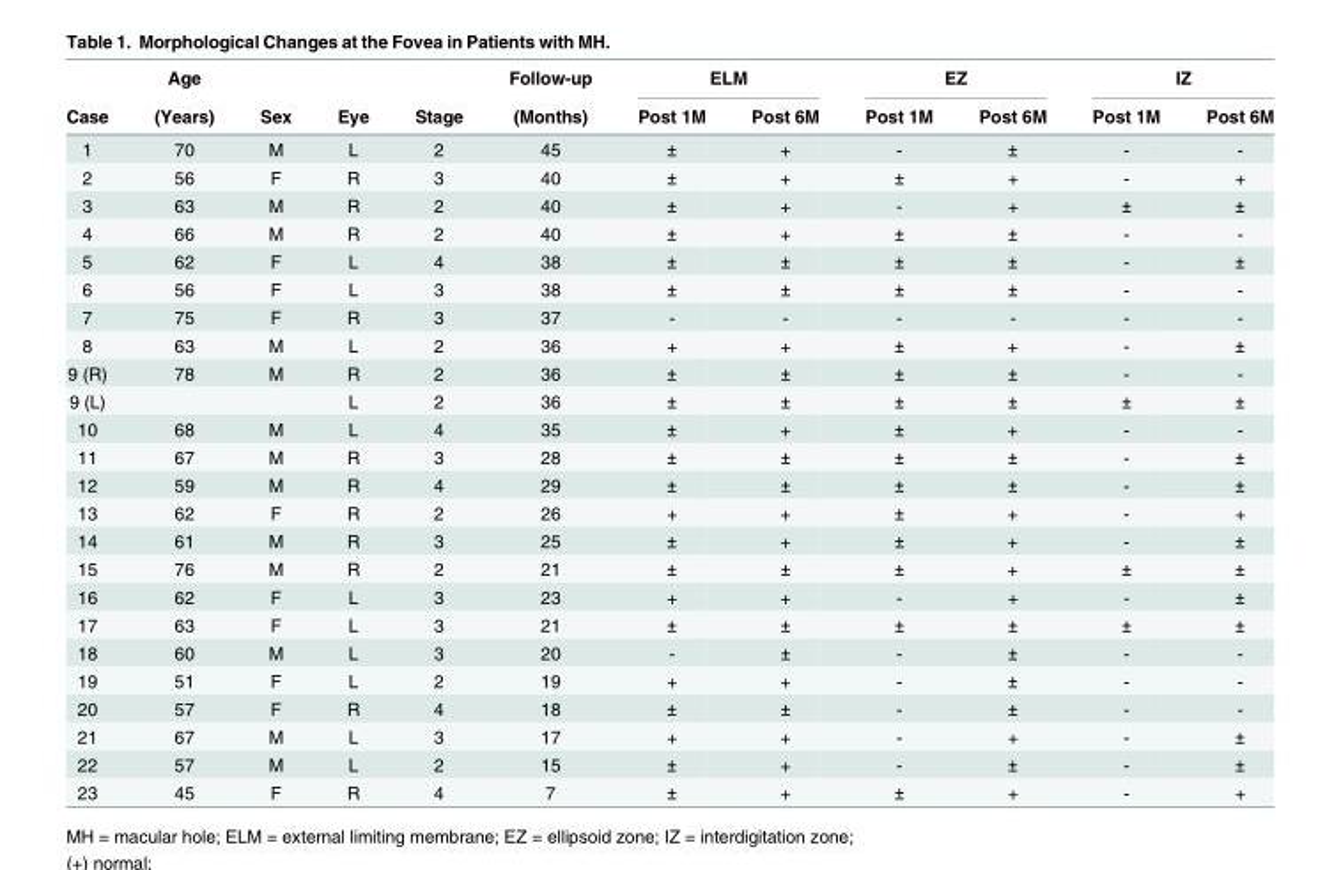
<table><thead><tr><td rowspan="2">Case</td><td rowspan="2">Age (Years)</td><td rowspan="2">Sex</td><td rowspan="2">Eye</td><td rowspan="2">Stage</td><td rowspan="2">Follow-up (Months)</td><td colspan="2">ELM</td><td colspan="2">EZ</td><td colspan="2">IZ</td></tr><tr><td>Post 1M</td><td>Post 6M</td><td>Post 1M</td><td>Post 6M</td><td>Post 1M</td><td>Post 6M</td></tr></thead><tbody><tr><td>1</td><td>70</td><td>M</td><td>L</td><td>2</td><td>45</td><td>±</td><td>+</td><td>-</td><td>±</td><td>-</td><td>-</td></tr><tr><td>2</td><td>56</td><td>F</td><td>R</td><td>3</td><td>40</td><td>±</td><td>+</td><td>±</td><td>+</td><td>-</td><td>+</td></tr><tr><td>3</td><td>63</td><td>M</td><td>R</td><td>2</td><td>40</td><td>±</td><td>+</td><td>-</td><td>+</td><td>±</td><td>±</td></tr><tr><td>4</td><td>66</td><td>M</td><td>R</td><td>2</td><td>40</td><td>±</td><td>+</td><td>±</td><td>±</td><td>-</td><td>-</td></tr><tr><td>5</td><td>62</td><td>F</td><td>L</td><td>4</td><td>38</td><td>±</td><td>±</td><td>±</td><td>±</td><td>-</td><td>±</td></tr><tr><td>6</td><td>56</td><td>F</td><td>L</td><td>3</td><td>38</td><td>±</td><td>±</td><td>±</td><td>±</td><td>-</td><td>-</td></tr><tr><td>7</td><td>75</td><td>F</td><td>R</td><td>3</td><td>37</td><td>-</td><td>-</td><td>-</td><td>-</td><td>-</td><td>-</td></tr><tr><td>8</td><td>63</td><td>M</td><td>L</td><td>2</td><td>36</td><td>+</td><td>+</td><td>±</td><td>+</td><td>-</td><td>±</td></tr><tr><td>9 (R)</td><td>78</td><td>M</td><td>R</td><td>2</td><td>36</td><td>±</td><td>±</td><td>±</td><td>±</td><td>-</td><td>-</td></tr><tr><td>9 (L)</td><td></td><td></td><td>L</td><td>2</td><td>36</td><td>±</td><td>±</td><td>±</td><td>±</td><td>±</td><td>±</td></tr><tr><td>10</td><td>68</td><td>M</td><td>L</td><td>4</td><td>35</td><td>±</td><td>+</td><td>±</td><td>+</td><td>-</td><td>-</td></tr><tr><td>11</td><td>67</td><td>M</td><td>R</td><td>3</td><td>28</td><td>±</td><td>±</td><td>±</td><td>±</td><td>-</td><td>±</td></tr><tr><td>12</td><td>59</td><td>M</td><td>R</td><td>4</td><td>29</td><td>±</td><td>±</td><td>±</td><td>±</td><td>-</td><td>±</td></tr><tr><td>13</td><td>62</td><td>F</td><td>R</td><td>2</td><td>26</td><td>+</td><td>+</td><td>±</td><td>+</td><td>-</td><td>+</td></tr><tr><td>14</td><td>61</td><td>M</td><td>R</td><td>3</td><td>25</td><td>±</td><td>+</td><td>±</td><td>+</td><td>-</td><td>±</td></tr><tr><td>15</td><td>76</td><td>M</td><td>R</td><td>2</td><td>21</td><td>±</td><td>±</td><td>±</td><td>+</td><td>±</td><td>±</td></tr><tr><td>16</td><td>62</td><td>F</td><td>L</td><td>3</td><td>23</td><td>+</td><td>+</td><td>-</td><td>+</td><td>-</td><td>±</td></tr><tr><td>17</td><td>63</td><td>F</td><td>L</td><td>3</td><td>21</td><td>±</td><td>±</td><td>±</td><td>±</td><td>±</td><td>±</td></tr><tr><td>18</td><td>60</td><td>M</td><td>L</td><td>3</td><td>20</td><td>-</td><td>±</td><td>-</td><td>±</td><td>-</td><td>-</td></tr><tr><td>19</td><td>51</td><td>F</td><td>L</td><td>2</td><td>19</td><td>+</td><td>+</td><td>-</td><td>±</td><td>-</td><td>-</td></tr><tr><td>20</td><td>57</td><td>F</td><td>R</td><td>4</td><td>18</td><td>±</td><td>±</td><td>-</td><td>±</td><td>-</td><td>-</td></tr><tr><td>21</td><td>67</td><td>M</td><td>L</td><td>3</td><td>17</td><td>+</td><td>+</td><td>-</td><td>+</td><td>-</td><td>±</td></tr><tr><td>22</td><td>57</td><td>M</td><td>L</td><td>2</td><td>15</td><td>±</td><td>+</td><td>-</td><td>±</td><td>-</td><td>±</td></tr><tr><td>23</td><td>45</td><td>F</td><td>R</td><td>4</td><td>7</td><td>±</td><td>+</td><td>±</td><td>+</td><td>-</td><td>+</td></tr></tbody></table>